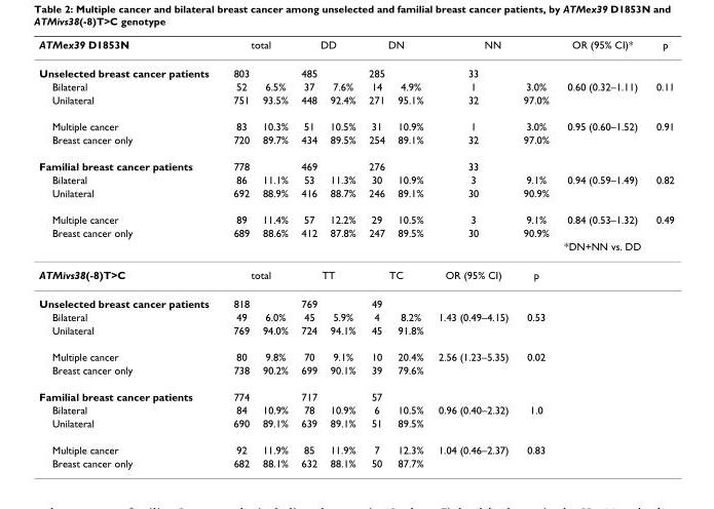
<table><thead><tr><td rowspan="2">ATMex39 D1853N Unselected breast cancer patients</td><td colspan="2">total</td><td colspan="2">DD</td><td colspan="2">DN</td><td colspan="2">NN</td><td rowspan="2">OR (95% CI)*</td><td rowspan="2">p</td></tr><tr><td>803</td><td></td><td>485</td><td></td><td>285</td><td></td><td>33</td><td></td></tr></thead><tbody><tr><td>Bilateral</td><td>52</td><td>6.5%</td><td>37</td><td>7.6%</td><td>14</td><td>4.9%</td><td>1</td><td>3.0%</td><td>0.60 (0.32–1.11)</td><td>0.11</td></tr><tr><td>Unilateral</td><td>751</td><td>93.5%</td><td>448</td><td>92.4%</td><td>271</td><td>95.1%</td><td>32</td><td>97.0%</td><td></td><td></td></tr><tr><td>Multiple cancer</td><td>83</td><td>10.3%</td><td>51</td><td>10.5%</td><td>31</td><td>10.9%</td><td>1</td><td>3.0%</td><td>0.95 (0.60–1.52)</td><td>0.91</td></tr><tr><td>Breast cancer only</td><td>720</td><td>89.7%</td><td>434</td><td>89.5%</td><td>254</td><td>89.1%</td><td>32</td><td>97.0%</td><td></td><td></td></tr><tr><td>Familial breast cancer patients</td><td>778</td><td></td><td>469</td><td></td><td>276</td><td></td><td>33</td><td></td><td></td><td></td></tr><tr><td>Bilateral</td><td>86</td><td>11.1%</td><td>53</td><td>11.3%</td><td>30</td><td>10.9%</td><td>3</td><td>9.1%</td><td>0.94 (0.59–1.49)</td><td>0.82</td></tr><tr><td>Unilateral</td><td>692</td><td>88.9%</td><td>416</td><td>88.7%</td><td>246</td><td>89.1%</td><td>30</td><td>90.9%</td><td></td><td></td></tr><tr><td>Multiple cancer</td><td>89</td><td>11.4%</td><td>57</td><td>12.2%</td><td>29</td><td>10.5%</td><td>3</td><td>9.1%</td><td>0.84 (0.53–1.32)</td><td>0.49</td></tr><tr><td rowspan="2">Breast cancer only</td><td>689</td><td>88.6%</td><td>412</td><td>87.8%</td><td>247</td><td>89.5%</td><td>30</td><td>90.9%</td><td></td><td></td></tr><tr><td></td><td></td><td></td><td></td><td></td><td></td><td></td><td></td><td>*DN+NN vs. DD</td><td></td></tr><tr><td>ATMivs38(-8)T&gt;C</td><td colspan="2">total</td><td colspan="2">TT</td><td colspan="2">TC</td><td>OR (95% CI)</td><td>p</td><td></td><td></td></tr><tr><td>Unselected breast cancer patients</td><td>818</td><td></td><td>769</td><td></td><td>49</td><td></td><td></td><td></td><td></td><td></td></tr><tr><td>Bilateral</td><td>49</td><td>6.0%</td><td>45</td><td>5.9%</td><td>4</td><td>8.2%</td><td>1.43 (0.49–4.15)</td><td>0.53</td><td></td><td></td></tr><tr><td>Unilateral</td><td>769</td><td>94.0%</td><td>724</td><td>94.1%</td><td>45</td><td>91.8%</td><td></td><td></td><td></td><td></td></tr><tr><td>Multiple cancer</td><td>80</td><td>9.8%</td><td>70</td><td>9.1%</td><td>10</td><td>20.4%</td><td>2.56 (1.23–5.35)</td><td>0.02</td><td></td><td></td></tr><tr><td>Breast cancer only</td><td>738</td><td>90.2%</td><td>699</td><td>90.1%</td><td>39</td><td>79.6%</td><td></td><td></td><td></td><td></td></tr><tr><td>Familial breast cancer patients</td><td>774</td><td></td><td>717</td><td></td><td>57</td><td></td><td></td><td></td><td></td><td></td></tr><tr><td>Bilateral</td><td>84</td><td>10.9%</td><td>78</td><td>10.9%</td><td>6</td><td>10.5%</td><td>0.96 (0.40–2.32)</td><td>1.0</td><td></td><td></td></tr><tr><td>Unilateral</td><td>690</td><td>89.1%</td><td>639</td><td>89.1%</td><td>51</td><td>89.5%</td><td></td><td></td><td></td><td></td></tr><tr><td>Multiple cancer</td><td>92</td><td>11.9%</td><td>85</td><td>11.9%</td><td>7</td><td>12.3%</td><td>1.04 (0.46–2.37)</td><td>0.83</td><td></td><td></td></tr><tr><td>Breast cancer only</td><td>682</td><td>88.1%</td><td>632</td><td>88.1%</td><td>50</td><td>87.7%</td><td></td><td></td><td></td><td></td></tr></tbody></table>